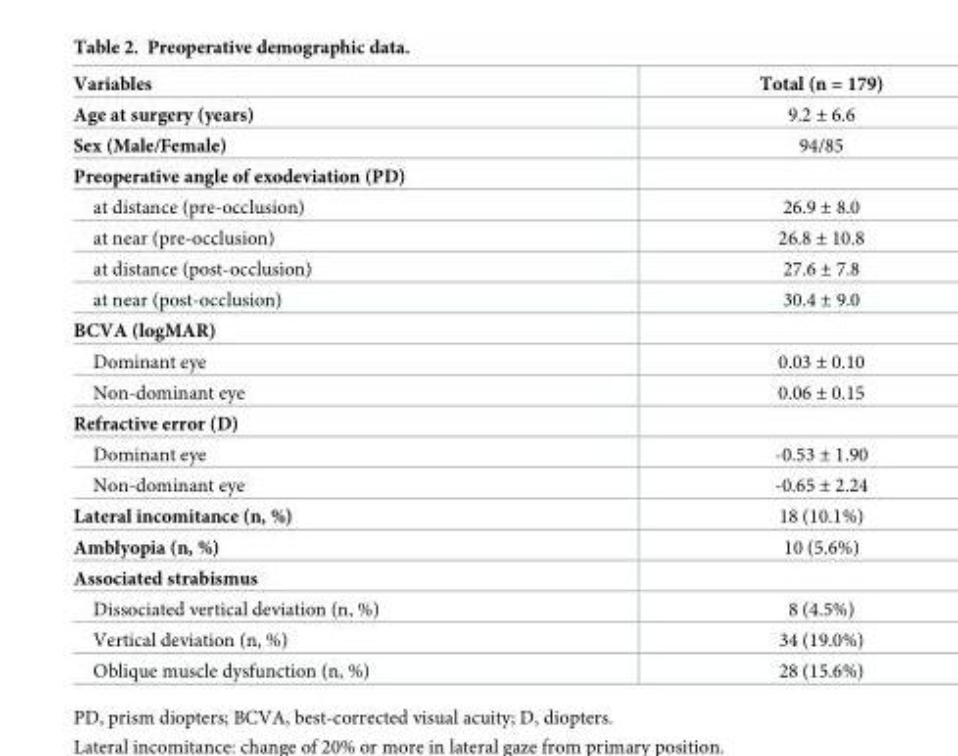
<table><thead><tr><td>Variables</td><td>Total (n = 179)</td></tr></thead><tbody><tr><td>Age at surgery (years)</td><td>9.2 ± 6.6</td></tr><tr><td>Sex (Male/Female)</td><td>94/85</td></tr><tr><td colspan="2">Preoperative angle of exodeviation (PD)</td></tr><tr><td>at distance (pre-occlusion)</td><td>26.9 ± 8.0</td></tr><tr><td>at near (pre-occlusion)</td><td>26.8 ± 10.8</td></tr><tr><td>at distance (post-occlusion)</td><td>27.6 ± 7.8</td></tr><tr><td>at near (post-occlusion)</td><td>30.4 ± 9.0</td></tr><tr><td colspan="2">BCVA (logMAR)</td></tr><tr><td>Dominant eye</td><td>0.03 ± 0.10</td></tr><tr><td>Non-dominant eye</td><td>0.06 ± 0.15</td></tr><tr><td colspan="2">Refractive error (D)</td></tr><tr><td>Dominant eye</td><td>-0.53 ± 1.90</td></tr><tr><td>Non-dominant eye</td><td>-0.65 ± 2.24</td></tr><tr><td>Lateral incomitance (n, %)</td><td>18 (10.1%)</td></tr><tr><td>Amblyopia (n, %)</td><td>10 (5.6%)</td></tr><tr><td colspan="2">Associated strabismus</td></tr><tr><td>Dissociated vertical deviation (n, %)</td><td>8 (4.5%)</td></tr><tr><td>Vertical deviation (n, %)</td><td>34 (19.0%)</td></tr><tr><td>Oblique muscle dysfunction (n, %)</td><td>28 (15.6%)</td></tr></tbody></table>